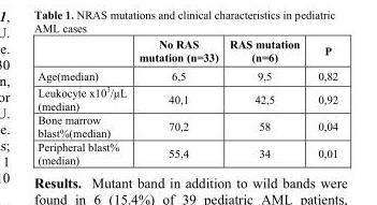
<table><thead><tr><td></td><td>No RAS mutation (n=33)</td><td>RAS mutation (n=6)</td><td>P</td></tr></thead><tbody><tr><td>Age(median)</td><td>6,5</td><td>9,5</td><td>0,82</td></tr><tr><td>Leukocyte x103/µL (median)</td><td>40,1</td><td>42,5</td><td>0,92</td></tr><tr><td>Bone marrow blast%(median)</td><td>70,2</td><td>58</td><td>0,04</td></tr><tr><td>Peripheral blast% (median)</td><td>55,4</td><td>34</td><td>0,01</td></tr></tbody></table>